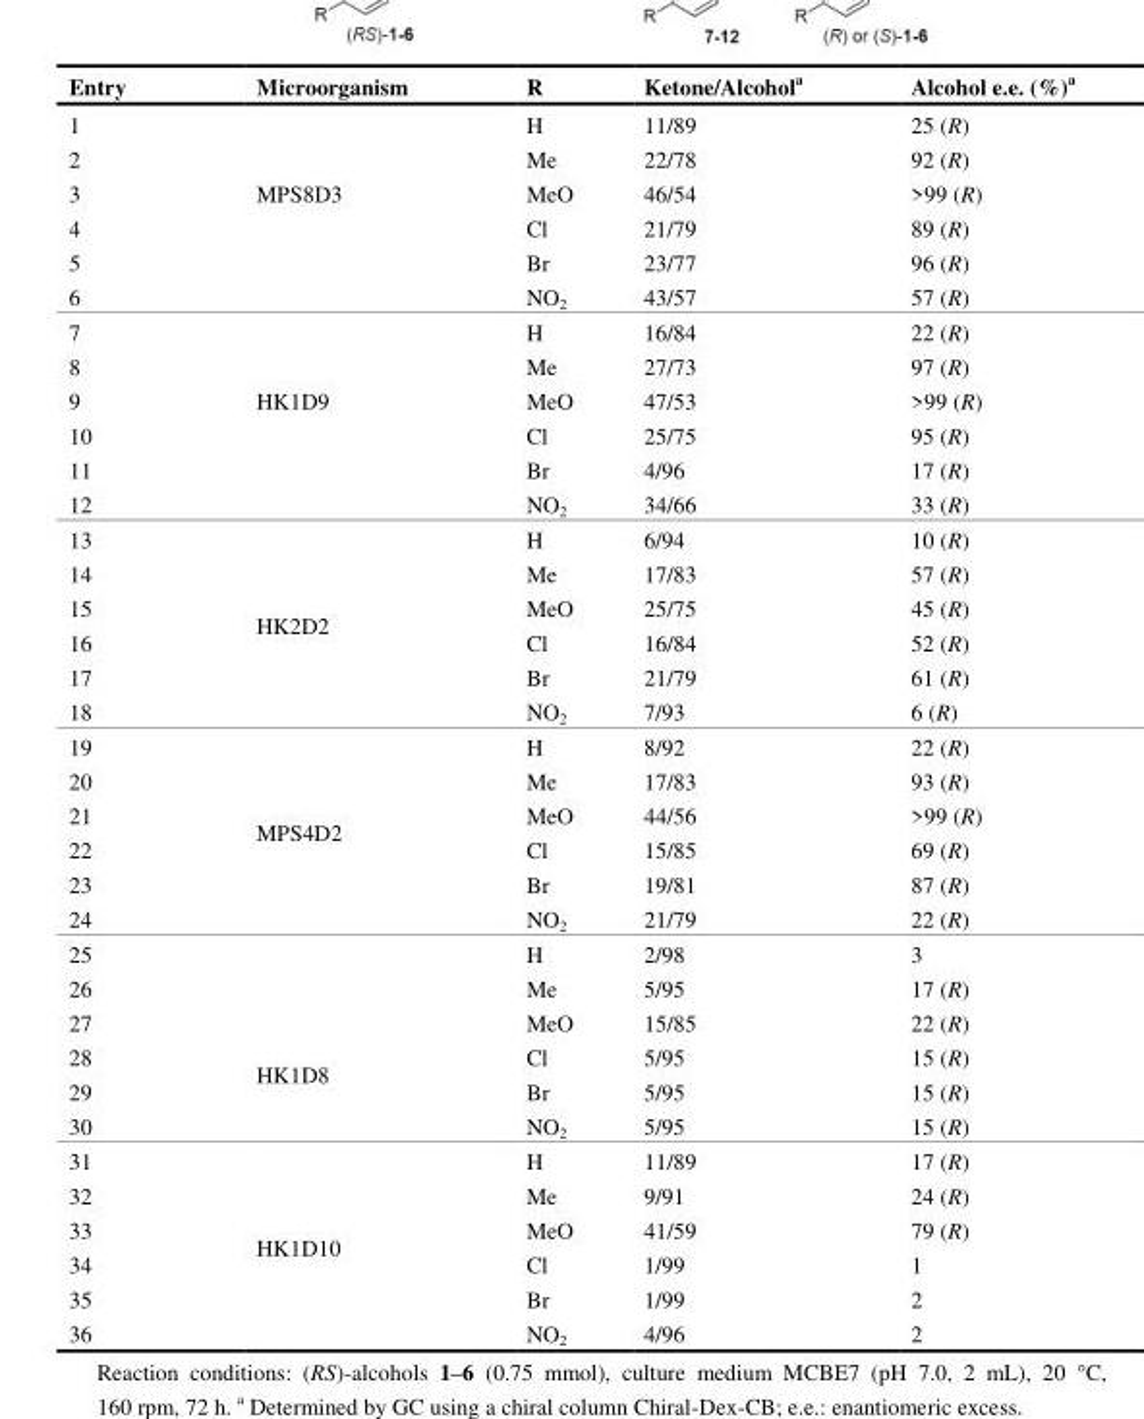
<table><thead><tr><td>Entry</td><td>Microorganism</td><td>R</td><td>Ketone/Alcohol<sup>a</sup></td><td>Alcohol e.e. (%)<sup>a</sup></td></tr></thead><tbody><tr><td>1</td><td rowspan="6">MPS8D3</td><td>H</td><td>11/89</td><td>25 (R)</td></tr><tr><td>2</td><td>Me</td><td>22/78</td><td>92 (R)</td></tr><tr><td>3</td><td>MeO</td><td>46/54</td><td>&gt;99 (R)</td></tr><tr><td>4</td><td>Cl</td><td>21/79</td><td>89 (R)</td></tr><tr><td>5</td><td>Br</td><td>23/77</td><td>96 (R)</td></tr><tr><td>6</td><td>NO<sub>2</sub></td><td>43/57</td><td>57 (R)</td></tr><tr><td>7</td><td rowspan="6">HK1D9</td><td>H</td><td>16/84</td><td>22 (R)</td></tr><tr><td>8</td><td>Me</td><td>27/73</td><td>97 (R)</td></tr><tr><td>9</td><td>MeO</td><td>47/53</td><td>&gt;99 (R)</td></tr><tr><td>10</td><td>Cl</td><td>25/75</td><td>95 (R)</td></tr><tr><td>11</td><td>Br</td><td>4/96</td><td>17 (R)</td></tr><tr><td>12</td><td>NO<sub>2</sub></td><td>34/66</td><td>33 (R)</td></tr><tr><td>13</td><td rowspan="6">HK2D2</td><td>H</td><td>6/94</td><td>10 (R)</td></tr><tr><td>14</td><td>Me</td><td>17/83</td><td>57 (R)</td></tr><tr><td>15</td><td>MeO</td><td>25/75</td><td>45 (R)</td></tr><tr><td>16</td><td>Cl</td><td>16/84</td><td>52 (R)</td></tr><tr><td>17</td><td>Br</td><td>21/79</td><td>61 (R)</td></tr><tr><td>18</td><td>NO<sub>2</sub></td><td>7/93</td><td>6 (R)</td></tr><tr><td>19</td><td rowspan="6">MPS4D2</td><td>H</td><td>8/92</td><td>22 (R)</td></tr><tr><td>20</td><td>Me</td><td>17/83</td><td>93 (R)</td></tr><tr><td>21</td><td>MeO</td><td>44/56</td><td>&gt;99 (R)</td></tr><tr><td>22</td><td>Cl</td><td>15/85</td><td>69 (R)</td></tr><tr><td>23</td><td>Br</td><td>19/81</td><td>87 (R)</td></tr><tr><td>24</td><td>NO<sub>2</sub></td><td>21/79</td><td>22 (R)</td></tr><tr><td>25</td><td rowspan="6">HK1D8</td><td>H</td><td>2/98</td><td>3</td></tr><tr><td>26</td><td>Me</td><td>5/95</td><td>17 (R)</td></tr><tr><td>27</td><td>MeO</td><td>15/85</td><td>22 (R)</td></tr><tr><td>28</td><td>Cl</td><td>5/95</td><td>15 (R)</td></tr><tr><td>29</td><td>Br</td><td>5/95</td><td>15 (R)</td></tr><tr><td>30</td><td>NO<sub>2</sub></td><td>5/95</td><td>15 (R)</td></tr><tr><td>31</td><td rowspan="6">HK1D10</td><td>H</td><td>11/89</td><td>17 (R)</td></tr><tr><td>32</td><td>Me</td><td>9/91</td><td>24 (R)</td></tr><tr><td>33</td><td>MeO</td><td>41/59</td><td>79 (R)</td></tr><tr><td>34</td><td>Cl</td><td>1/99</td><td>1</td></tr><tr><td>35</td><td>Br</td><td>1/99</td><td>2</td></tr><tr><td>36</td><td>NO<sub>2</sub></td><td>4/96</td><td>2</td></tr></tbody></table>